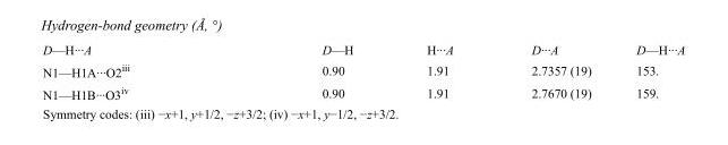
<table><tbody><tr><td>D—H···A</td><td>D—H</td><td>H···A</td><td>D···A</td><td>D—H···A</td></tr><tr><td>N1—H1A···O2<sup>iii</sup></td><td>0.90</td><td>1.91</td><td>2.7357 (19)</td><td>153.</td></tr><tr><td>N1—H1B···O3<sup>iv</sup></td><td>0.90</td><td>1.91</td><td>2.7670 (19)</td><td>159.</td></tr></tbody></table>